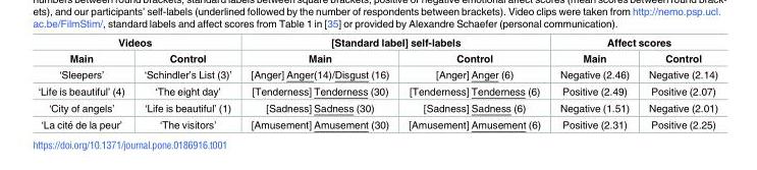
<table><thead><tr><td colspan="2">Videos</td><td colspan="2">[Standard label] self-labels</td><td colspan="2">Affect scores</td></tr><tr><td>Main</td><td>Control</td><td>Main</td><td>Control</td><td>Main</td><td>Control</td></tr></thead><tbody><tr><td>‘Sleepers’</td><td>‘Schindler’s List (3)’</td><td>[Anger] Anger(14)/Disgust (16)</td><td>[Anger] Anger (6)</td><td>Negative (2.46)</td><td>Negative (2.14)</td></tr><tr><td>‘Life is beautiful’ (4)</td><td>‘The eight day’</td><td>[Tenderness] Tenderness (30)</td><td>[Tenderness] Tenderness (6)</td><td>Positive (2.49)</td><td>Positive (2.07)</td></tr><tr><td>‘City of angels’</td><td>‘Life is beautiful’ (1)</td><td>[Sadness] Sadness (30)</td><td>[Sadness] Sadness (6)</td><td>Negative (1.51)</td><td>Negative (2.01)</td></tr><tr><td>‘La cite´ de la peur’</td><td>‘The visitors’</td><td>[Amusement] Amusement (30)</td><td>[Amusement] Amusement (6)</td><td>Positive (2.31)</td><td>Positive (2.25)</td></tr></tbody></table>